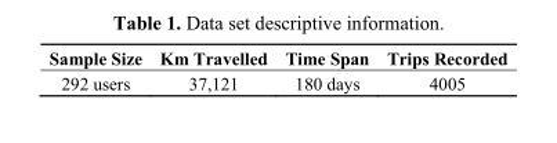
<table><thead><tr><td>Sample Size</td><td>Km Travelled</td><td>Time Span</td><td>Trips Recorded</td></tr></thead><tbody><tr><td>292 users</td><td>37,121</td><td>180 days</td><td>4005</td></tr></tbody></table>